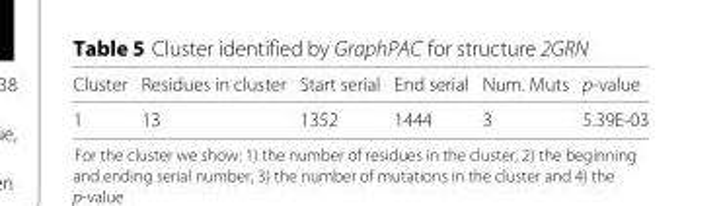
<table><thead><tr><td>Cluster</td><td>Residues in cluster</td><td>Start serial</td><td>End serial</td><td>Num. Muts</td><td>p-value</td></tr></thead><tbody><tr><td>1</td><td>13</td><td>1352</td><td>1444</td><td>3</td><td>5.39E-03</td></tr></tbody></table>